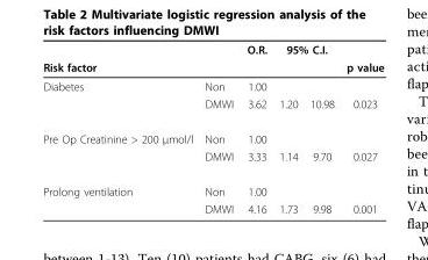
<table><thead><tr><td></td><td></td><td rowspan="2">O.R.</td><td colspan="2">95% C.I.</td><td rowspan="2">p value</td></tr><tr><td colspan="2">Risk factor</td><td></td><td></td></tr></thead><tbody><tr><td rowspan="2">Diabetes</td><td>Non</td><td>1.00</td><td></td><td></td><td></td></tr><tr><td>DMWI</td><td>3.62</td><td>1.20</td><td>10.98</td><td>0.023</td></tr><tr><td rowspan="2">Pre Op Creatinine &gt; 200 μmol/l</td><td>Non</td><td>1.00</td><td></td><td></td><td></td></tr><tr><td>DMWI</td><td>3.33</td><td>1.14</td><td>9.70</td><td>0.027</td></tr><tr><td rowspan="2">Prolong ventilation</td><td>Non</td><td>1.00</td><td></td><td></td><td></td></tr><tr><td>DMWI</td><td>4.16</td><td>1.73</td><td>9.98</td><td>0.001</td></tr></tbody></table>